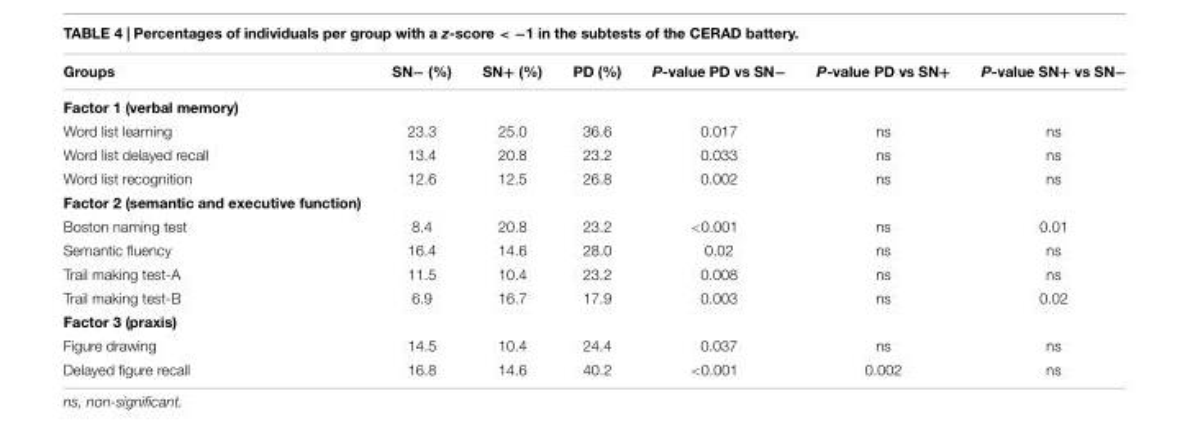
<table><thead><tr><td>Groups</td><td>SN− (%)</td><td>SN+ (%)</td><td>PD (%)</td><td>P-value PD vs SN−</td><td>P-value PD vs SN+</td><td>P-value SN+ vs SN−</td></tr></thead><tbody><tr><td colspan="7">Factor 1 (verbal memory)</td></tr><tr><td>Word list learning</td><td>23.3</td><td>25.0</td><td>36.6</td><td>0.017</td><td>ns</td><td>ns</td></tr><tr><td>Word list delayed recall</td><td>13.4</td><td>20.8</td><td>23.2</td><td>0.033</td><td>ns</td><td>ns</td></tr><tr><td>Word list recognition</td><td>12.6</td><td>12.5</td><td>26.8</td><td>0.002</td><td>ns</td><td>ns</td></tr><tr><td colspan="7">Factor 2 (semantic and executive function)</td></tr><tr><td>Boston naming test</td><td>8.4</td><td>20.8</td><td>23.2</td><td>&lt;0.001</td><td>ns</td><td>0.01</td></tr><tr><td>Semantic fluency</td><td>16.4</td><td>14.6</td><td>28.0</td><td>0.02</td><td>ns</td><td>ns</td></tr><tr><td>Trail making test-A</td><td>11.5</td><td>10.4</td><td>23.2</td><td>0.008</td><td>ns</td><td>ns</td></tr><tr><td>Trail making test-B</td><td>6.9</td><td>16.7</td><td>17.9</td><td>0.003</td><td>ns</td><td>0.02</td></tr><tr><td colspan="7">Factor 3 (praxis)</td></tr><tr><td>Figure drawing</td><td>14.5</td><td>10.4</td><td>24.4</td><td>0.037</td><td>ns</td><td>ns</td></tr><tr><td>Delayed figure recall</td><td>16.8</td><td>14.6</td><td>40.2</td><td>&lt;0.001</td><td>0.002</td><td>ns</td></tr></tbody></table>